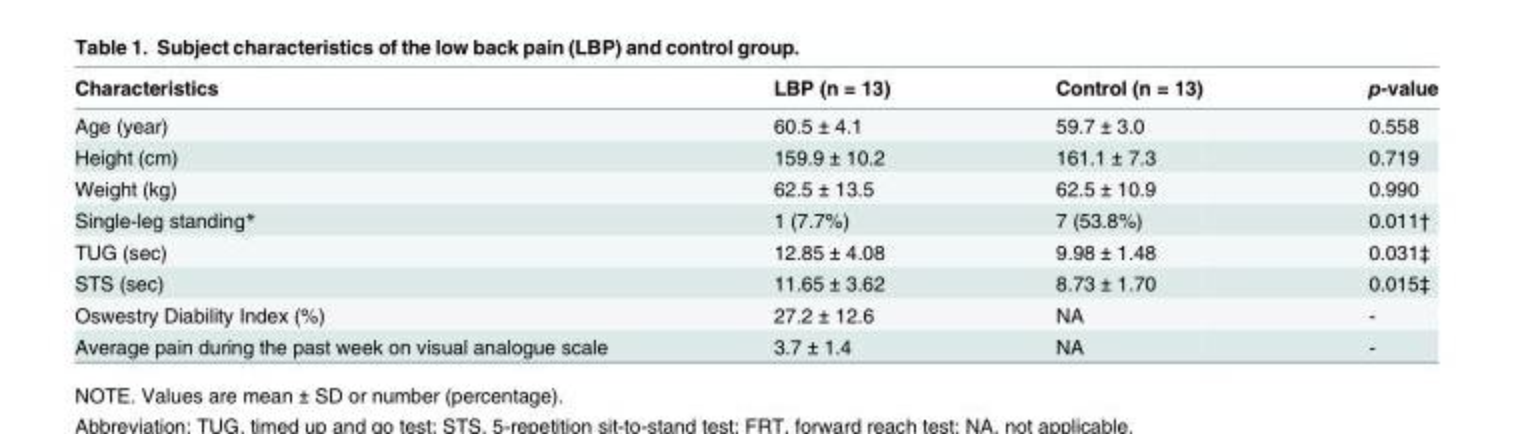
<table><thead><tr><td>Characteristics</td><td>LBP (n = 13)</td><td>Control (n = 13)</td><td>p-value</td></tr></thead><tbody><tr><td>Age (year)</td><td>60.5 ± 4.1</td><td>59.7 ± 3.0</td><td>0.558</td></tr><tr><td>Height (cm)</td><td>159.9 ± 10.2</td><td>161.1 ± 7.3</td><td>0.719</td></tr><tr><td>Weight (kg)</td><td>62.5 ± 13.5</td><td>62.5 ± 10.9</td><td>0.990</td></tr><tr><td>Single-leg standing*</td><td>1 (7.7%)</td><td>7 (53.8%)</td><td>0.011†</td></tr><tr><td>TUG (sec)</td><td>12.85 ± 4.08</td><td>9.98 ± 1.48</td><td>0.031‡</td></tr><tr><td>STS (sec)</td><td>11.65 ± 3.62</td><td>8.73 ± 1.70</td><td>0.015‡</td></tr><tr><td>Oswestry Diability Index (%)</td><td>27.2 ± 12.6</td><td>NA</td><td>-</td></tr><tr><td>Average pain during the past week on visual analogue scale</td><td>3.7 ± 1.4</td><td>NA</td><td>-</td></tr></tbody></table>